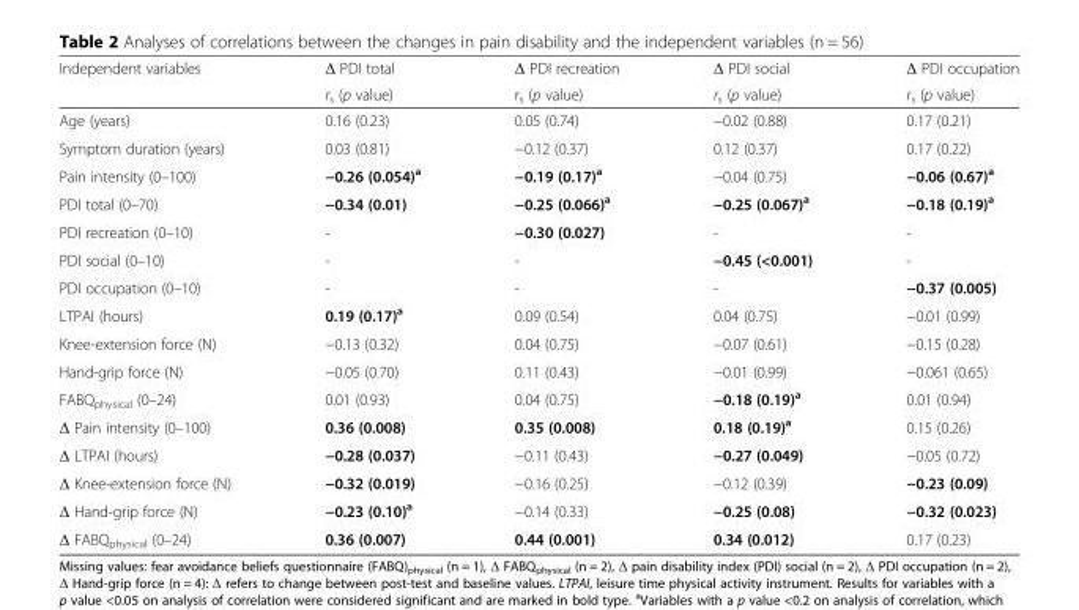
<table><thead><tr><td rowspan="2">Independent variables</td><td rowspan="2">Δ PDI total rs (p value)</td><td rowspan="2">Δ PDI recreation rs (p value)</td><td rowspan="2">Δ PDI social rs (p value)</td><td rowspan="2">Δ PDI occupation rs (p value)</td></tr><tr></tr></thead><tbody><tr><td>Age (years)</td><td>0.16 (0.23)</td><td>0.05 (0.74)</td><td>−0.02 (0.88)</td><td>0.17 (0.21)</td></tr><tr><td>Symptom duration (years)</td><td>0.03 (0.81)</td><td>−0.12 (0.37)</td><td>0.12 (0.37)</td><td>0.17 (0.22)</td></tr><tr><td>Pain intensity (0–100)</td><td>−0.26 (0.054)<sup>a</sup></td><td>−0.19 (0.17)<sup>a</sup></td><td>−0.04 (0.75)</td><td>−0.06 (0.67)<sup>a</sup></td></tr><tr><td>PDI total (0–70)</td><td>−0.34 (0.01)</td><td>−0.25 (0.066)<sup>a</sup></td><td>−0.25 (0.067)<sup>a</sup></td><td>−0.18 (0.19)<sup>a</sup></td></tr><tr><td>PDI recreation (0–10)</td><td>-</td><td>−0.30 (0.027)</td><td>-</td><td>-</td></tr><tr><td>PDI social (0–10)</td><td>-</td><td>-</td><td>−0.45 (&lt;0.001)</td><td>-</td></tr><tr><td>PDI occupation (0–10)</td><td>-</td><td>-</td><td>-</td><td>−0.37 (0.005)</td></tr><tr><td>LTPAI (hours)</td><td>0.19 (0.17)<sup>a</sup></td><td>0.09 (0.54)</td><td>0.04 (0.75)</td><td>−0.01 (0.99)</td></tr><tr><td>Knee-extension force (N)</td><td>−0.13 (0.32)</td><td>0.04 (0.75)</td><td>−0.07 (0.61)</td><td>−0.15 (0.28)</td></tr><tr><td>Hand-grip force (N)</td><td>−0.05 (0.70)</td><td>0.11 (0.43)</td><td>−0.01 (0.99)</td><td>−0.061 (0.65)</td></tr><tr><td>FABQ<sub>physical</sub> (0–24)</td><td>0.01 (0.93)</td><td>0.04 (0.75)</td><td>−0.18 (0.19)<sup>a</sup></td><td>0.01 (0.94)</td></tr><tr><td>Δ Pain intensity (0–100)</td><td>0.36 (0.008)</td><td>0.35 (0.008)</td><td>0.18 (0.19)<sup>a</sup></td><td>0.15 (0.26)</td></tr><tr><td>Δ LTPAI (hours)</td><td>−0.28 (0.037)</td><td>−0.11 (0.43)</td><td>−0.27 (0.049)</td><td>−0.05 (0.72)</td></tr><tr><td>Δ Knee-extension force (N)</td><td>−0.32 (0.019)</td><td>−0.16 (0.25)</td><td>−0.12 (0.39)</td><td>−0.23 (0.09)</td></tr><tr><td>Δ Hand-grip force (N)</td><td>−0.23 (0.10)<sup>a</sup></td><td>−0.14 (0.33)</td><td>−0.25 (0.08)</td><td>−0.32 (0.023)</td></tr><tr><td>Δ FABQ<sub>physical</sub> (0–24)</td><td>0.36 (0.007)</td><td>0.44 (0.001)</td><td>0.34 (0.012)</td><td>0.17 (0.23)</td></tr></tbody></table>